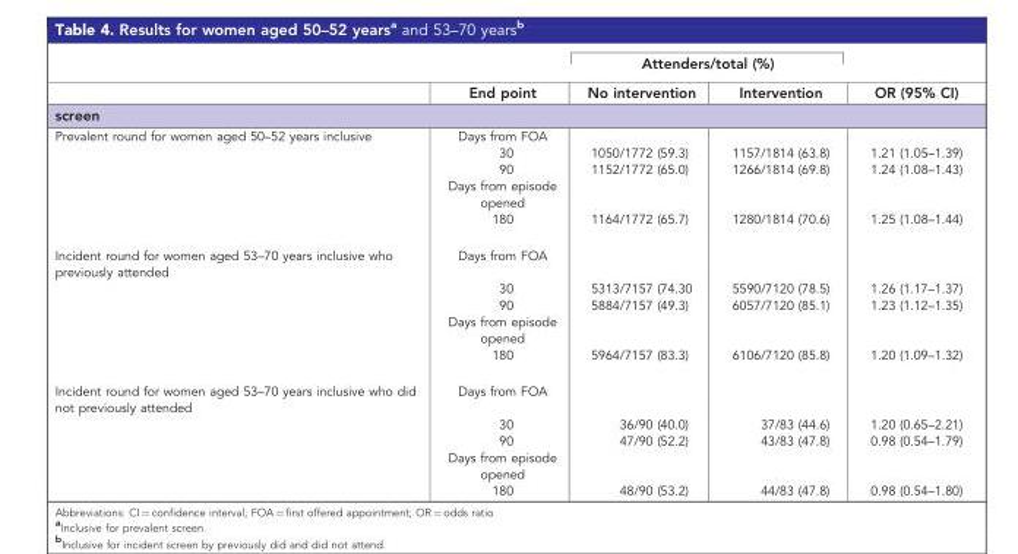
<table><thead><tr><td rowspan="2"></td><td rowspan="2">End point</td><td colspan="2">Attenders/total (%)</td><td rowspan="2">OR (95% CI)</td></tr><tr><td>No intervention</td><td>Intervention</td></tr></thead><tbody><tr><td colspan="5">screen</td></tr><tr><td rowspan="5">Prevalent round for women aged 50–52 years inclusive</td><td>Days from FOA</td><td></td><td></td><td></td></tr><tr><td>30</td><td>1050/1772 (59.3)</td><td>1157/1814 (63.8)</td><td>1.21 (1.05–1.39)</td></tr><tr><td>90</td><td>1152/1772 (65.0)</td><td>1266/1814 (69.8)</td><td>1.24 (1.08–1.43)</td></tr><tr><td>Days from episode opened</td><td></td><td></td><td></td></tr><tr><td>180</td><td>1164/1772 (65.7)</td><td>1280/1814 (70.6)</td><td>1.25 (1.08–1.44)</td></tr><tr><td rowspan="5">Incident round for women aged 53–70 years inclusive who previously attended</td><td>Days from FOA</td><td></td><td></td><td></td></tr><tr><td>30</td><td>5313/7157 (74.30</td><td>5590/7120 (78.5)</td><td>1.26 (1.17–1.37)</td></tr><tr><td>90</td><td>5884/7157 (49.3)</td><td>6057/7120 (85.1)</td><td>1.23 (1.12–1.35)</td></tr><tr><td>Days from episode opened</td><td></td><td></td><td></td></tr><tr><td>180</td><td>5964/7157 (83.3)</td><td>6106/7120 (85.8)</td><td>1.20 (1.09–1.32)</td></tr><tr><td rowspan="5">Incident round for women aged 53–70 years inclusive who did not previously attended</td><td>Days from FOA</td><td></td><td></td><td></td></tr><tr><td>30</td><td>36/90 (40.0)</td><td>37/83 (44.6)</td><td>1.20 (0.65–2.21)</td></tr><tr><td>90</td><td>47/90 (52.2)</td><td>43/83 (47.8)</td><td>0.98 (0.54–1.79)</td></tr><tr><td>Days from episode opened</td><td></td><td></td><td></td></tr><tr><td>180</td><td>48/90 (53.2)</td><td>44/83 (47.8)</td><td>0.98 (0.54–1.80)</td></tr></tbody></table>